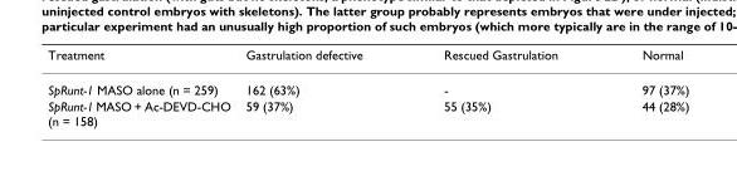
<table><thead><tr><td>Treatment</td><td>Gastrulation defective</td><td>Rescued Gastrulation</td><td>Normal</td></tr></thead><tbody><tr><td>SpRunt-1 MASO alone (n = 259)</td><td>162 (63%)</td><td>-</td><td>97 (37%)</td></tr><tr><td>SpRunt-1 MASO + Ac-DEVD-CHO (n = 158)</td><td>59 (37%)</td><td>55 (35%)</td><td>44 (28%)</td></tr></tbody></table>